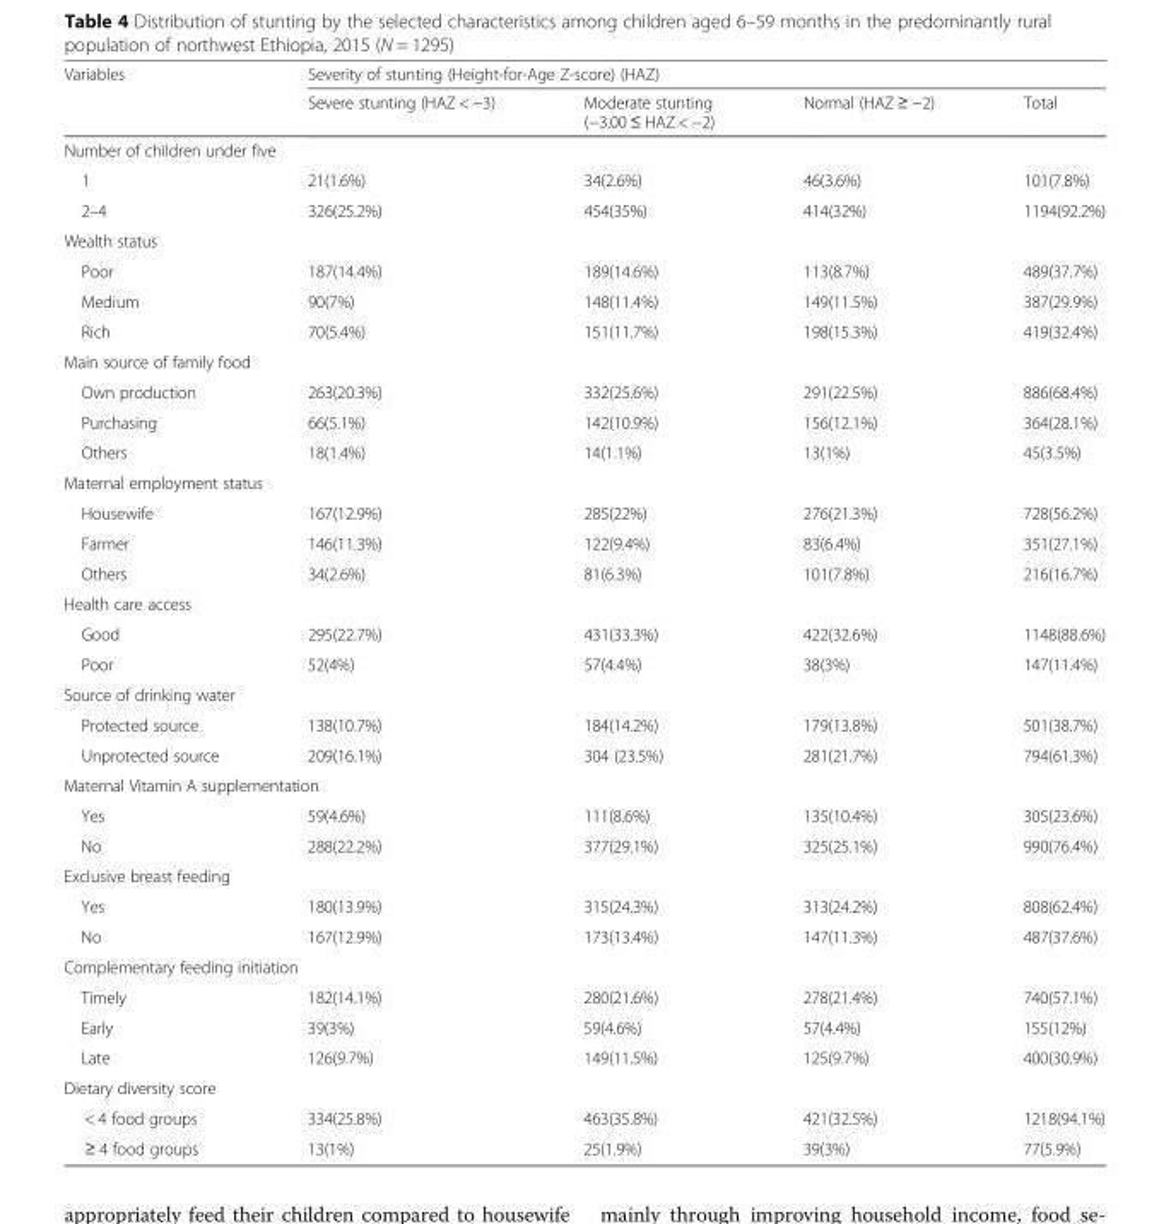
<table><thead><tr><td rowspan="2">Variables</td><td colspan="4">Severity of stunting (Height-for-Age Z-score) (HAZ)</td></tr><tr><td>Severe stunting (HAZ &lt; −3)</td><td>Moderate stunting (−3.00 ≤ HAZ &lt; −2)</td><td>Normal (HAZ ≥ −2)</td><td>Total</td></tr></thead><tbody><tr><td colspan="5">Number of children under five</td></tr><tr><td>1</td><td>21(1.6%)</td><td>34(2.6%)</td><td>46(3.6%)</td><td>101(7.8%)</td></tr><tr><td>2–4</td><td>326(25.2%)</td><td>454(35%)</td><td>414(32%)</td><td>1194(92.2%)</td></tr><tr><td colspan="5">Wealth status</td></tr><tr><td>Poor</td><td>187(14.4%)</td><td>189(14.6%)</td><td>113(8.7%)</td><td>489(37.7%)</td></tr><tr><td>Medium</td><td>90(7%)</td><td>148(11.4%)</td><td>149(11.5%)</td><td>387(29.9%)</td></tr><tr><td>Rich</td><td>70(5.4%)</td><td>151(11.7%)</td><td>198(15.3%)</td><td>419(32.4%)</td></tr><tr><td colspan="5">Main source of family food</td></tr><tr><td>Own production</td><td>263(20.3%)</td><td>332(25.6%)</td><td>291(22.5%)</td><td>886(68.4%)</td></tr><tr><td>Purchasing</td><td>66(5.1%)</td><td>142(10.9%)</td><td>156(12.1%)</td><td>364(28.1%)</td></tr><tr><td>Others</td><td>18(1.4%)</td><td>14(1.1%)</td><td>13(1%)</td><td>45(3.5%)</td></tr><tr><td colspan="5">Maternal employment status</td></tr><tr><td>Housewife</td><td>167(12.9%)</td><td>285(22%)</td><td>276(21.3%)</td><td>728(56.2%)</td></tr><tr><td>Farmer</td><td>146(11.3%)</td><td>122(9.4%)</td><td>83(6.4%)</td><td>351(27.1%)</td></tr><tr><td>Others</td><td>34(2.6%)</td><td>81(6.3%)</td><td>101(7.8%)</td><td>216(16.7%)</td></tr><tr><td colspan="5">Health care access</td></tr><tr><td>Good</td><td>295(22.7%)</td><td>431(33.3%)</td><td>422(32.6%)</td><td>1148(88.6%)</td></tr><tr><td>Poor</td><td>52(4%)</td><td>57(4.4%)</td><td>38(3%)</td><td>147(11.4%)</td></tr><tr><td colspan="5">Source of drinking water</td></tr><tr><td>Protected source</td><td>138(10.7%)</td><td>184(14.2%)</td><td>179(13.8%)</td><td>501(38.7%)</td></tr><tr><td>Unprotected source</td><td>209(16.1%)</td><td>304 (23.5%)</td><td>281(21.7%)</td><td>794(61.3%)</td></tr><tr><td colspan="5">Maternal Vitamin A supplementation</td></tr><tr><td>Yes</td><td>59(4.6%)</td><td>111(8.6%)</td><td>135(10.4%)</td><td>305(23.6%)</td></tr><tr><td>No</td><td>288(22.2%)</td><td>377(29.1%)</td><td>325(25.1%)</td><td>990(76.4%)</td></tr><tr><td colspan="5">Exclusive breast feeding</td></tr><tr><td>Yes</td><td>180(13.9%)</td><td>315(24.3%)</td><td>313(24.2%)</td><td>808(62.4%)</td></tr><tr><td>No</td><td>167(12.9%)</td><td>173(13.4%)</td><td>147(11.3%)</td><td>487(37.6%)</td></tr><tr><td colspan="5">Complementary feeding initiation</td></tr><tr><td>Timely</td><td>182(14.1%)</td><td>280(21.6%)</td><td>278(21.4%)</td><td>740(57.1%)</td></tr><tr><td>Early</td><td>39(3%)</td><td>59(4.6%)</td><td>57(4.4%)</td><td>155(12%)</td></tr><tr><td>Late</td><td>126(9.7%)</td><td>149(11.5%)</td><td>125(9.7%)</td><td>400(30.9%)</td></tr><tr><td colspan="5">Dietary diversity score</td></tr><tr><td>&lt; 4 food groups</td><td>334(25.8%)</td><td>463(35.8%)</td><td>421(32.5%)</td><td>1218(94.1%)</td></tr><tr><td>≥ 4 food groups</td><td>13(1%)</td><td>25(1.9%)</td><td>39(3%)</td><td>77(5.9%)</td></tr></tbody></table>